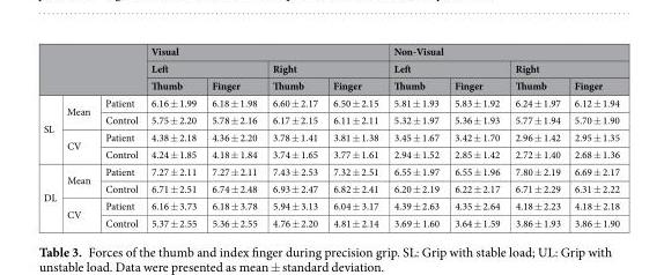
<table><thead><tr><td rowspan="3"></td><td rowspan="3"></td><td rowspan="3"></td><td colspan="4">Visual</td><td colspan="4">Non-Visual</td></tr><tr><td colspan="2">Left</td><td colspan="2">Right</td><td colspan="2">Left</td><td colspan="2">Right</td></tr><tr><td>Thumb</td><td>Finger</td><td>Thumb</td><td>Finger</td><td>Thumb</td><td>Finger</td><td>Thumb</td><td>Finger</td></tr></thead><tbody><tr><td rowspan="4">SL</td><td rowspan="2">Mean</td><td>Patient</td><td>6.16 ± 1.99</td><td>6.18 ± 1.98</td><td>6.60 ± 2.17</td><td>6.50 ± 2.15</td><td>5.81 ± 1.93</td><td>5.83 ± 1.92</td><td>6.24 ± 1.97</td><td>6.12 ± 1.94</td></tr><tr><td>Control</td><td>5.75 ± 2.20</td><td>5.78 ± 2.16</td><td>6.17 ± 2.15</td><td>6.11 ± 2.11</td><td>5.32 ± 1.97</td><td>5.36 ± 1.93</td><td>5.77 ± 1.94</td><td>5.70 ± 1.90</td></tr><tr><td rowspan="2">CV</td><td>Patient</td><td>4.38 ± 2.18</td><td>4.36 ± 2.20</td><td>3.78 ± 1.41</td><td>3.81 ± 1.38</td><td>3.45 ± 1.67</td><td>3.42 ± 1.70</td><td>2.96 ± 1.42</td><td>2.95 ± 1.35</td></tr><tr><td>Control</td><td>4.24 ± 1.85</td><td>4.18 ± 1.84</td><td>3.74 ± 1.65</td><td>3.77 ± 1.61</td><td>2.94 ± 1.52</td><td>2.85 ± 1.42</td><td>2.72 ± 1.40</td><td>2.68 ± 1.36</td></tr><tr><td rowspan="4">DL</td><td rowspan="2">Mean</td><td>Patient</td><td>7.27 ± 2.11</td><td>7.27 ± 2.11</td><td>7.43 ± 2.53</td><td>7.32 ± 2.51</td><td>6.55 ± 1.97</td><td>6.55 ± 1.96</td><td>7.80 ± 2.19</td><td>6.69 ± 2.17</td></tr><tr><td>Control</td><td>6.71 ± 2.51</td><td>6.74 ± 2.48</td><td>6.93 ± 2.47</td><td>6.82 ± 2.41</td><td>6.20 ± 2.19</td><td>6.22 ± 2.17</td><td>6.71 ± 2.29</td><td>6.31 ± 2.22</td></tr><tr><td rowspan="2">CV</td><td>Patient</td><td>6.16 ± 3.73</td><td>6.18 ± 3.78</td><td>5.94 ± 3.13</td><td>6.04 ± 3.17</td><td>4.39 ± 2.63</td><td>4.35 ± 2.64</td><td>4.18 ± 2.23</td><td>4.18 ± 2.18</td></tr><tr><td>Control</td><td>5.37 ± 2.55</td><td>5.36 ± 2.55</td><td>4.76 ± 2.20</td><td>4.81 ± 2.14</td><td>3.69 ± 1.60</td><td>3.64 ± 1.59</td><td>3.86 ± 1.93</td><td>3.86 ± 1.90</td></tr></tbody></table>